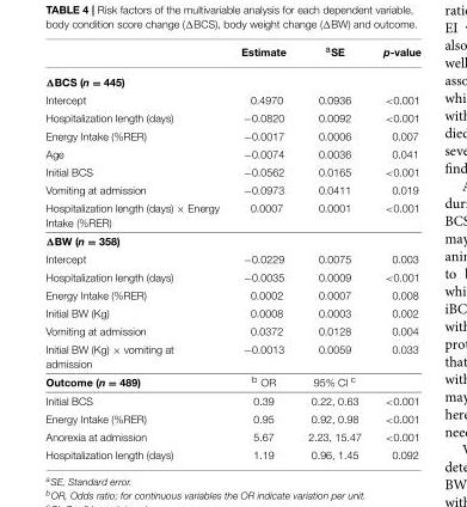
<table><thead><tr><td></td><td>Estimate</td><td><sup>a</sup>SE</td><td>p-value</td></tr></thead><tbody><tr><td colspan="4">ΔBCS (n = 445)</td></tr><tr><td>Intercept</td><td>0.4970</td><td>0.0936</td><td>&lt;0.001</td></tr><tr><td>Hospitalization length (days)</td><td>−0.0820</td><td>0.0092</td><td>&lt;0.001</td></tr><tr><td>Energy Intake (%RER)</td><td>−0.0017</td><td>0.0006</td><td>0.007</td></tr><tr><td>Age</td><td>−0.0074</td><td>0.0036</td><td>0.041</td></tr><tr><td>Initial BCS</td><td>−0.0562</td><td>0.0165</td><td>&lt;0.001</td></tr><tr><td>Vomiting at admission</td><td>−0.0973</td><td>0.0411</td><td>0.019</td></tr><tr><td>Hospitalization length (days) × Energy Intake (%RER)</td><td>0.0007</td><td>0.0001</td><td>&lt;0.001</td></tr><tr><td colspan="4">ΔBW (n = 358)</td></tr><tr><td>Intercept</td><td>−0.0229</td><td>0.0075</td><td>0.003</td></tr><tr><td>Hospitalization length (days)</td><td>−0.0035</td><td>0.0009</td><td>&lt;0.001</td></tr><tr><td>Energy Intake (%RER)</td><td>0.0002</td><td>0.0007</td><td>0.008</td></tr><tr><td>Initial BW (Kg)</td><td>0.0008</td><td>0.0003</td><td>0.002</td></tr><tr><td>Vomiting at admission</td><td>0.0372</td><td>0.0128</td><td>0.004</td></tr><tr><td>Initial BW (Kg) × vomiting at admission</td><td>−0.0013</td><td>0.0059</td><td>0.033</td></tr><tr><td>Outcome (n = 489)</td><td><sup>b</sup> OR</td><td>95% CI <sup>c</sup></td><td></td></tr><tr><td>Initial BCS</td><td>0.39</td><td>0.22, 0.63</td><td>&lt;0.001</td></tr><tr><td>Energy Intake (%RER)</td><td>0.95</td><td>0.92, 0.98</td><td>&lt;0.001</td></tr><tr><td>Anorexia at admission</td><td>5.67</td><td>2.23, 15.47</td><td>&lt;0.001</td></tr><tr><td>Hospitalization length (days)</td><td>1.19</td><td>0.96, 1.45</td><td>0.092</td></tr></tbody></table>